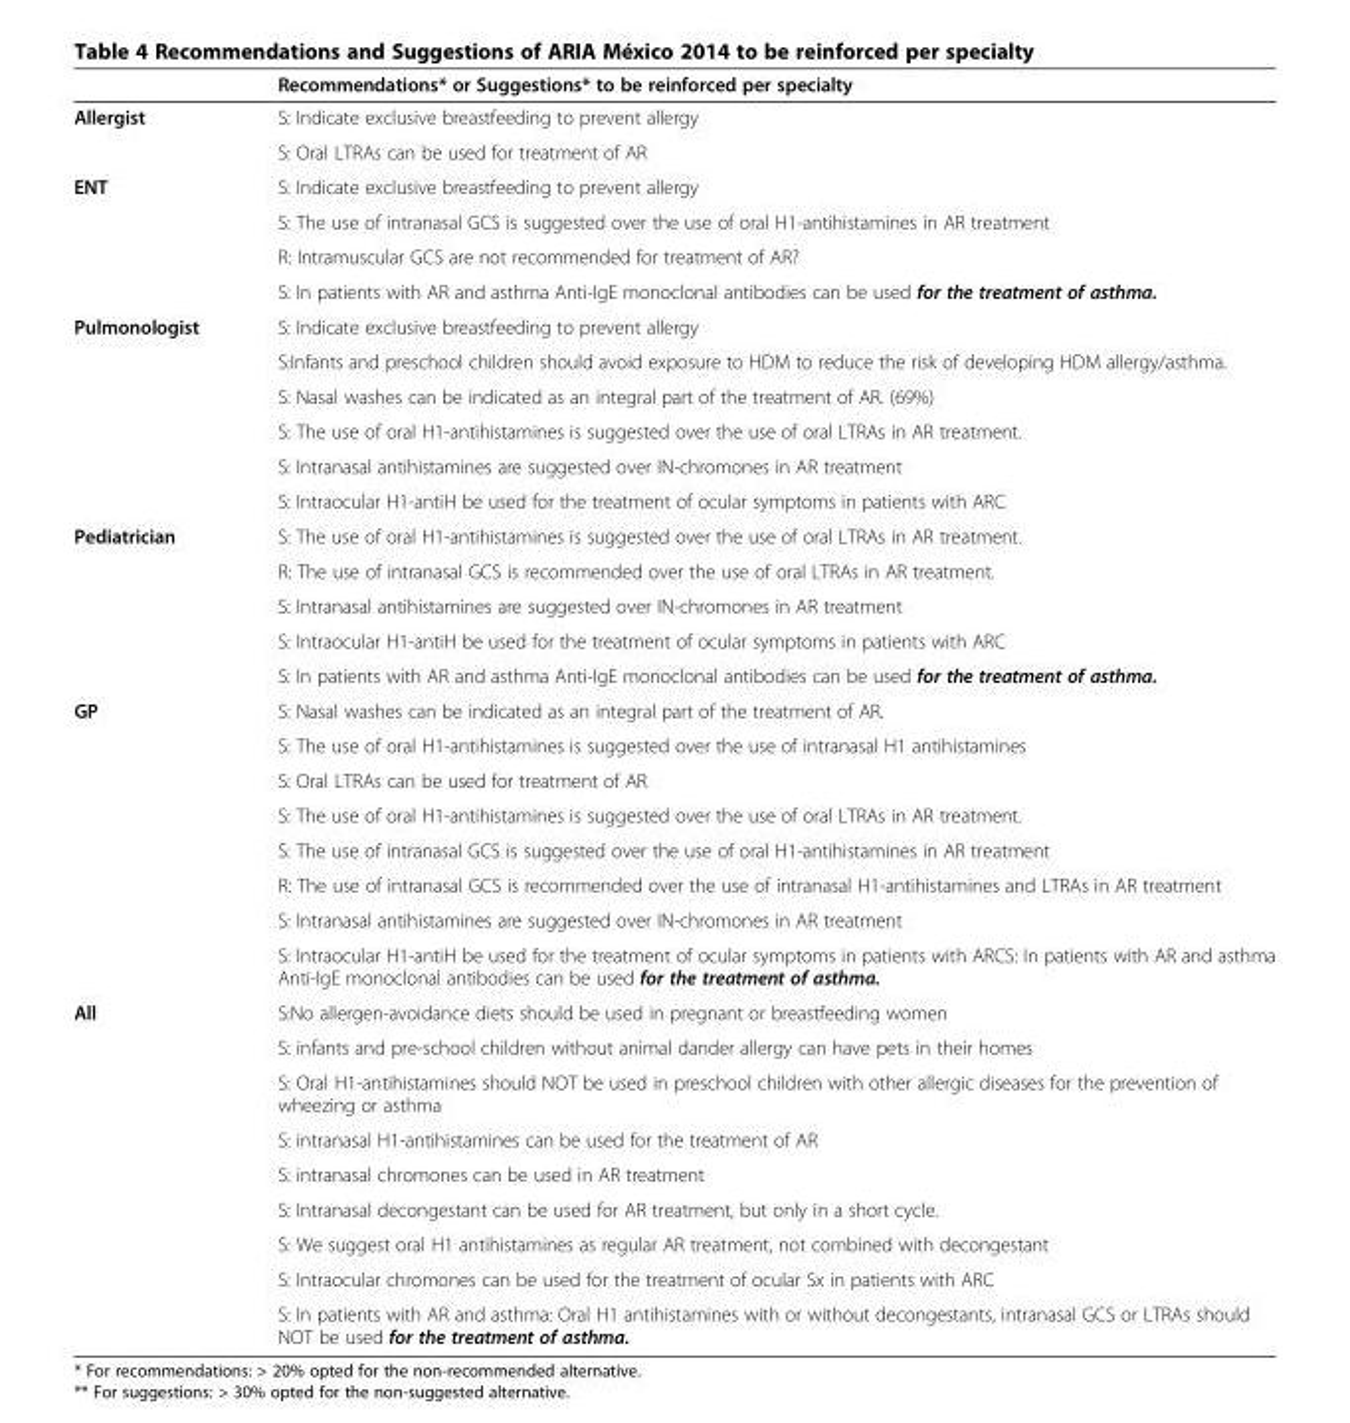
<table><thead><tr><td></td><td>Recommendations* or Suggestions* to be reinforced per specialty</td></tr></thead><tbody><tr><td rowspan="2">Allergist</td><td>S: Indicate exclusive breastfeeding to prevent allergy</td></tr><tr><td>S: Oral LTRAs can be used for treatment of AR</td></tr><tr><td rowspan="4">ENT</td><td>S: Indicate exclusive breastfeeding to prevent allergy</td></tr><tr><td>S: The use of intranasal GCS is suggested over the use of oral H1-antihistamines in AR treatment</td></tr><tr><td>R: Intramuscular GCS are not recommended for treatment of AR?</td></tr><tr><td>S: In patients with AR and asthma Anti-IgE monoclonal antibodies can be used for the treatment of asthma.</td></tr><tr><td rowspan="6">Pulmonologist</td><td>S: Indicate exclusive breastfeeding to prevent allergy</td></tr><tr><td>S:Infants and preschool children should avoid exposure to HDM to reduce the risk of developing HDM allergy/asthma.</td></tr><tr><td>S: Nasal washes can be indicated as an integral part of the treatment of AR. (69%)</td></tr><tr><td>S: The use of oral H1-antihistamines is suggested over the use of oral LTRAs in AR treatment.</td></tr><tr><td>S: Intranasal antihistamines are suggested over IN-chromones in AR treatment</td></tr><tr><td>S: Intraocular H1-antiH be used for the treatment of ocular symptoms in patients with ARC</td></tr><tr><td rowspan="5">Pediatrician</td><td>S: The use of oral H1-antihistamines is suggested over the use of oral LTRAs in AR treatment.</td></tr><tr><td>R: The use of intranasal GCS is recommended over the use of oral LTRAs in AR treatment.</td></tr><tr><td>S: Intranasal antihistamines are suggested over IN-chromones in AR treatment</td></tr><tr><td>S: Intraocular H1-antiH be used for the treatment of ocular symptoms in patients with ARC</td></tr><tr><td>S: In patients with AR and asthma Anti-IgE monoclonal antibodies can be used for the treatment of asthma.</td></tr><tr><td rowspan="8">GP</td><td>S: Nasal washes can be indicated as an integral part of the treatment of AR.</td></tr><tr><td>S: The use of oral H1-antihistamines is suggested over the use of intranasal H1 antihistamines</td></tr><tr><td>S: Oral LTRAs can be used for treatment of AR</td></tr><tr><td>S: The use of oral H1-antihistamines is suggested over the use of oral LTRAs in AR treatment.</td></tr><tr><td>S: The use of intranasal GCS is suggested over the use of oral H1-antihistamines in AR treatment</td></tr><tr><td>R: The use of intranasal GCS is recommended over the use of intranasal H1-antihistamines and LTRAs in AR treatment</td></tr><tr><td>S: Intranasal antihistamines are suggested over IN-chromones in AR treatment</td></tr><tr><td>S: Intraocular H1-antiH be used for the treatment of ocular symptoms in patients with ARCS: In patients with AR and asthma Anti-IgE monoclonal antibodies can be used for the treatment of asthma.</td></tr><tr><td rowspan="9">All</td><td>S:No allergen-avoidance diets should be used in pregnant or breastfeeding women</td></tr><tr><td>S: infants and pre-school children without animal dander allergy can have pets in their homes</td></tr><tr><td>S: Oral H1-antihistamines should NOT be used in preschool children with other allergic diseases for the prevention of wheezing or asthma</td></tr><tr><td>S: intranasal H1-antihistamines can be used for the treatment of AR</td></tr><tr><td>S: intranasal chromones can be used in AR treatment</td></tr><tr><td>S: Intranasal decongestant can be used for AR treatment, but only in a short cycle.</td></tr><tr><td>S: We suggest oral H1 antihistamines as regular AR treatment, not combined with decongestant</td></tr><tr><td>S: Intraocular chromones can be used for the treatment of ocular Sx in patients with ARC</td></tr><tr><td>S: In patients with AR and asthma: Oral H1 antihistamines with or without decongestants, intranasal GCS or LTRAs should NOT be used for the treatment of asthma.</td></tr></tbody></table>